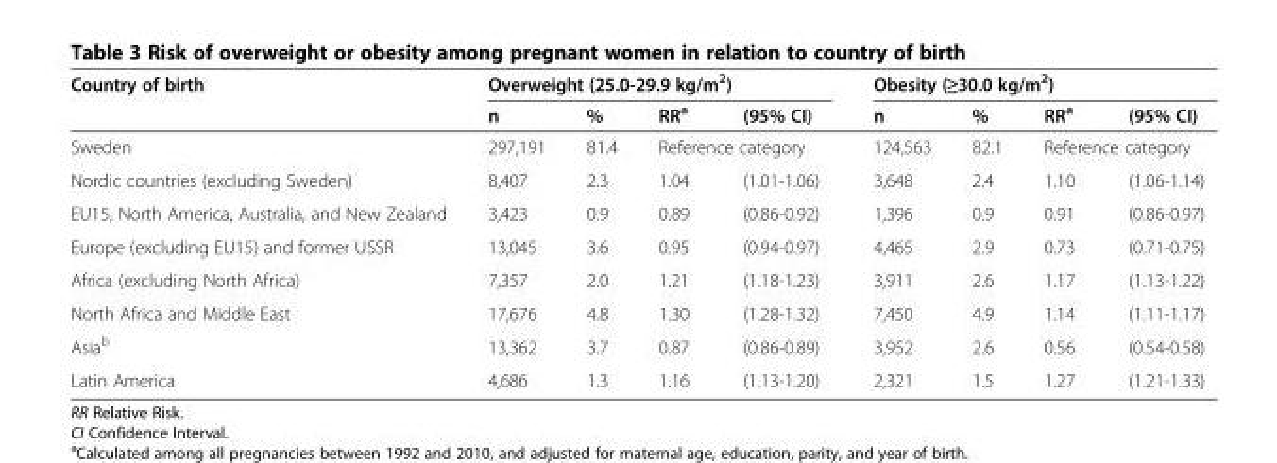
<table><thead><tr><td rowspan="2">Country of birth</td><td colspan="4">Overweight (25.0-29.9 kg/m<sup>2</sup>)</td><td colspan="4">Obesity (≥30.0 kg/m<sup>2</sup>)</td></tr><tr><td>n</td><td>%</td><td>RR<sup>a</sup></td><td>(95% CI)</td><td>n</td><td>%</td><td>RR<sup>a</sup></td><td>(95% CI)</td></tr></thead><tbody><tr><td>Sweden</td><td>297,191</td><td>81.4</td><td colspan="2">Reference category</td><td>124,563</td><td>82.1</td><td colspan="2">Reference category</td></tr><tr><td>Nordic countries (excluding Sweden)</td><td>8,407</td><td>2.3</td><td>1.04</td><td>(1.01-1.06)</td><td>3,648</td><td>2.4</td><td>1.10</td><td>(1.06-1.14)</td></tr><tr><td>EU15, North America, Australia, and New Zealand</td><td>3,423</td><td>0.9</td><td>0.89</td><td>(0.86-0.92)</td><td>1,396</td><td>0.9</td><td>0.91</td><td>(0.86-0.97)</td></tr><tr><td>Europe (excluding EU15) and former USSR</td><td>13,045</td><td>3.6</td><td>0.95</td><td>(0.94-0.97)</td><td>4,465</td><td>2.9</td><td>0.73</td><td>(0.71-0.75)</td></tr><tr><td>Africa (excluding North Africa)</td><td>7,357</td><td>2.0</td><td>1.21</td><td>(1.18-1.23)</td><td>3,911</td><td>2.6</td><td>1.17</td><td>(1.13-1.22)</td></tr><tr><td>North Africa and Middle East</td><td>17,676</td><td>4.8</td><td>1.30</td><td>(1.28-1.32)</td><td>7,450</td><td>4.9</td><td>1.14</td><td>(1.11-1.17)</td></tr><tr><td>Asia<sup>b</sup></td><td>13,362</td><td>3.7</td><td>0.87</td><td>(0.86-0.89)</td><td>3,952</td><td>2.6</td><td>0.56</td><td>(0.54-0.58)</td></tr><tr><td>Latin America</td><td>4,686</td><td>1.3</td><td>1.16</td><td>(1.13-1.20)</td><td>2,321</td><td>1.5</td><td>1.27</td><td>(1.21-1.33)</td></tr></tbody></table>